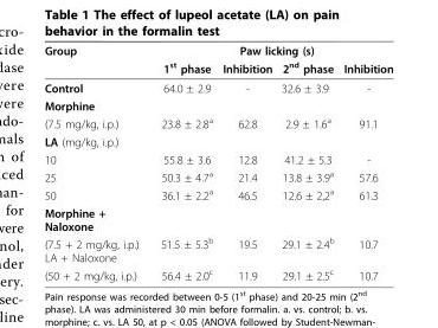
<table><thead><tr><td rowspan="2">Group</td><td colspan="4">Paw licking (s)</td></tr><tr><td>1<sup>st</sup> phase</td><td>Inhibition</td><td>2<sup>nd</sup> phase</td><td>Inhibition</td></tr></thead><tbody><tr><td>Control</td><td>64.0 ± 2.9</td><td>-</td><td>32.6 ± 3.9</td><td>-</td></tr><tr><td colspan="5">Morphine</td></tr><tr><td>(7.5 mg/kg, i.p.)</td><td>23.8 ± 2.8<sup>a</sup></td><td>62.8</td><td>2.9 ± 1.6<sup>a</sup></td><td>91.1</td></tr><tr><td colspan="5">LA (mg/kg, i.p.)</td></tr><tr><td>10</td><td>55.8 ± 3.6</td><td>12.8</td><td>41.2 ± 5.3</td><td>-</td></tr><tr><td>25</td><td>50.3 ± 4.7<sup>a</sup></td><td>21.4</td><td>13.8 ± 3.9<sup>a</sup></td><td>57.6</td></tr><tr><td>50</td><td>36.1 ± 2.2<sup>a</sup></td><td>46.5</td><td>12.6 ± 2,2<sup>a</sup></td><td>61.3</td></tr><tr><td colspan="5">Morphine + Naloxone</td></tr><tr><td>(7.5 + 2 mg/kg, i.p.) LA + Naloxone</td><td>51.5 ± 5.3<sup>b</sup></td><td>19.5</td><td>29.1 ± 2.4<sup>b</sup></td><td>10.7</td></tr><tr><td>(50 + 2 mg/kg, i.p.)</td><td>56.4 ± 2.0<sup>c</sup></td><td>11.9</td><td>29.1 ± 2.5<sup>c</sup></td><td>10.7</td></tr></tbody></table>